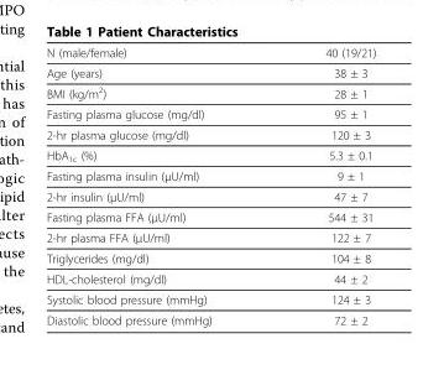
<table><thead><tr><td>N (male/female)</td><td>40 (19/21)</td></tr></thead><tbody><tr><td>Age (years)</td><td>38 ± 3</td></tr><tr><td>BMI (kg/m<sup>2</sup>)</td><td>28 ± 1</td></tr><tr><td>Fasting plasma glucose (mg/dl)</td><td>95 ± 1</td></tr><tr><td>2-hr plasma glucose (mg/dl)</td><td>120 ± 3</td></tr><tr><td>HbA<sub>1c</sub> (%)</td><td>5.3 ± 0.1</td></tr><tr><td>Fasting plasma insulin (μU/ml)</td><td>9 ± 1</td></tr><tr><td>2-hr insulin (μU/ml)</td><td>47 ± 7</td></tr><tr><td>Fasting plasma FFA (μU/ml)</td><td>544 ± 31</td></tr><tr><td>2-hr plasma FFA (μU/ml)</td><td>122 ± 7</td></tr><tr><td>Triglycerides (mg/dl)</td><td>104 ± 8</td></tr><tr><td>HDL-cholesterol (mg/dl)</td><td>44 ± 2</td></tr><tr><td>Systolic blood pressure (mmHg)</td><td>124 ± 3</td></tr><tr><td>Diastolic blood pressure (mmHg)</td><td>72 ± 2</td></tr></tbody></table>